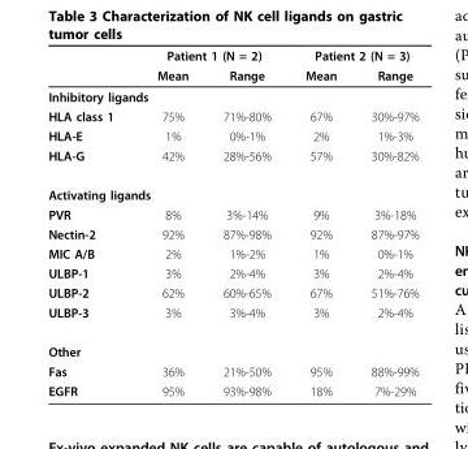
<table><thead><tr><td rowspan="2"></td><td colspan="2">Patient 1 (N = 2)</td><td colspan="2">Patient 2 (N = 3)</td></tr><tr><td>Mean</td><td>Range</td><td>Mean</td><td>Range</td></tr></thead><tbody><tr><td colspan="5">Inhibitory ligands</td></tr><tr><td>HLA class 1</td><td>75%</td><td>71%-80%</td><td>67%</td><td>30%-97%</td></tr><tr><td>HLA-E</td><td>1%</td><td>0%-1%</td><td>2%</td><td>1%-3%</td></tr><tr><td>HLA-G</td><td>42%</td><td>28%-56%</td><td>57%</td><td>30%-82%</td></tr><tr><td colspan="5">Activating ligands</td></tr><tr><td>PVR</td><td>8%</td><td>3%-14%</td><td>9%</td><td>3%-18%</td></tr><tr><td>Nectin-2</td><td>92%</td><td>87%-98%</td><td>92%</td><td>87%-97%</td></tr><tr><td>MIC A/B</td><td>2%</td><td>1%-2%</td><td>1%</td><td>0%-1%</td></tr><tr><td>ULBP-1</td><td>3%</td><td>2%-4%</td><td>3%</td><td>2%-4%</td></tr><tr><td>ULBP-2</td><td>62%</td><td>60%-65%</td><td>67%</td><td>51%-76%</td></tr><tr><td>ULBP-3</td><td>3%</td><td>3%-4%</td><td>3%</td><td>2%-4%</td></tr><tr><td colspan="5">Other</td></tr><tr><td>Fas</td><td>36%</td><td>21%-50%</td><td>95%</td><td>88%-99%</td></tr><tr><td>EGFR</td><td>95%</td><td>93%-98%</td><td>18%</td><td>7%-29%</td></tr></tbody></table>